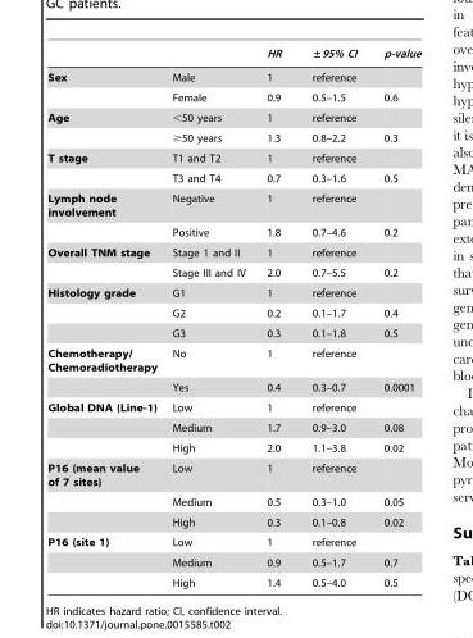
<table><thead><tr><td></td><td></td><td>HR</td><td>±95% CI</td><td>p-value</td></tr></thead><tbody><tr><td rowspan="2">Sex</td><td>Male</td><td>1</td><td>reference</td><td></td></tr><tr><td>Female</td><td>0.9</td><td>0.5–1.5</td><td>0.6</td></tr><tr><td rowspan="2">Age</td><td>&lt;50 years</td><td>1</td><td>reference</td><td></td></tr><tr><td>≥50 years</td><td>1.3</td><td>0.8–2.2</td><td>0.3</td></tr><tr><td rowspan="2">T stage</td><td>T1 and T2</td><td>1</td><td>reference</td><td></td></tr><tr><td>T3 and T4</td><td>0.7</td><td>0.3–1.6</td><td>0.5</td></tr><tr><td rowspan="2">Lymph node involvement</td><td>Negative</td><td>1</td><td>reference</td><td></td></tr><tr><td>Positive</td><td>1.8</td><td>0.7–4.6</td><td>0.2</td></tr><tr><td rowspan="2">Overall TNM stage</td><td>Stage 1 and II</td><td>1</td><td>reference</td><td></td></tr><tr><td>Stage III and IV</td><td>2.0</td><td>0.7–5.5</td><td>0.2</td></tr><tr><td rowspan="3">Histology grade</td><td>G1</td><td>1</td><td>reference</td><td></td></tr><tr><td>G2</td><td>0.2</td><td>0.1–1.7</td><td>0.4</td></tr><tr><td>G3</td><td>0.3</td><td>0.1–1.8</td><td>0.5</td></tr><tr><td rowspan="2">Chemotherapy/ Chemoradiotherapy</td><td>No</td><td>1</td><td>reference</td><td></td></tr><tr><td>Yes</td><td>0.4</td><td>0.3–0.7</td><td>0.0001</td></tr><tr><td rowspan="3">Global DNA (Line-1)</td><td>Low</td><td>1</td><td>reference</td><td></td></tr><tr><td>Medium</td><td>1.7</td><td>0.9–3.0</td><td>0.08</td></tr><tr><td>High</td><td>2.0</td><td>1.1–3.8</td><td>0.02</td></tr><tr><td rowspan="3">P16 (mean value of 7 sites)</td><td>Low</td><td>1</td><td>reference</td><td></td></tr><tr><td>Medium</td><td>0.5</td><td>0.3–1.0</td><td>0.05</td></tr><tr><td>High</td><td>0.3</td><td>0.1–0.8</td><td>0.02</td></tr><tr><td rowspan="3">P16 (site 1)</td><td>Low</td><td>1</td><td>reference</td><td></td></tr><tr><td>Medium</td><td>0.9</td><td>0.5–1.7</td><td>0.7</td></tr><tr><td>High</td><td>1.4</td><td>0.5–4.0</td><td>0.5</td></tr></tbody></table>